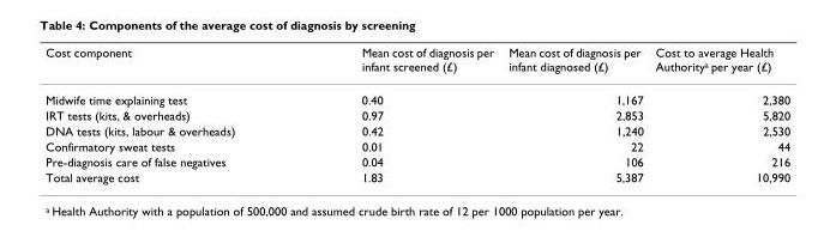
<table><thead><tr><td>Cost component</td><td>Mean cost of diagnosis per infant screened (£)</td><td>Mean cost of diagnosis per infant diagnosed (£)</td><td>Cost to average Health Authority<sup>a</sup> per year (£)</td></tr></thead><tbody><tr><td>Midwife time explaining test</td><td>0.40</td><td>1,167</td><td>2,380</td></tr><tr><td>IRT tests (kits, &amp; overheads)</td><td>0.97</td><td>2,853</td><td>5,820</td></tr><tr><td>DNA tests (kits, labour &amp; overheads)</td><td>0.42</td><td>1,240</td><td>2,530</td></tr><tr><td>Confirmatory sweat tests</td><td>0.01</td><td>22</td><td>44</td></tr><tr><td>Pre-diagnosis care of false negatives</td><td>0.04</td><td>106</td><td>216</td></tr><tr><td>Total average cost</td><td>1.83</td><td>5,387</td><td>10,990</td></tr></tbody></table>